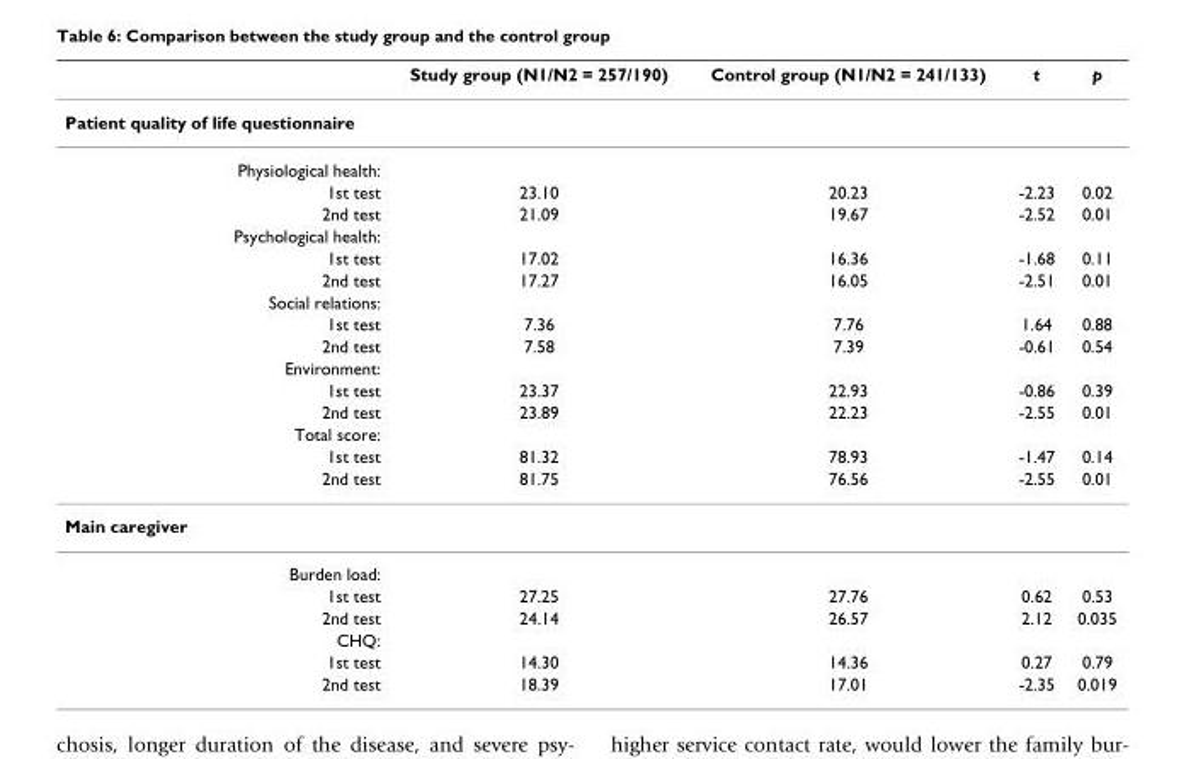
<table><thead><tr><td></td><td>Study group (N1/N2 = 257/190)</td><td>Control group (N1/N2 = 241/133)</td><td>t</td><td>p</td></tr></thead><tbody><tr><td colspan="5">Patient quality of life questionnaire</td></tr><tr><td colspan="5">Physiological health:</td></tr><tr><td>1st test</td><td>23.10</td><td>20.23</td><td>-2.23</td><td>0.02</td></tr><tr><td>2nd test</td><td>21.09</td><td>19.67</td><td>-2.52</td><td>0.01</td></tr><tr><td colspan="5">Psychological health:</td></tr><tr><td>1st test</td><td>17.02</td><td>16.36</td><td>-1.68</td><td>0.11</td></tr><tr><td>2nd test</td><td>17.27</td><td>16.05</td><td>-2.51</td><td>0.01</td></tr><tr><td colspan="5">Social relations:</td></tr><tr><td>1st test</td><td>7.36</td><td>7.76</td><td>1.64</td><td>0.88</td></tr><tr><td>2nd test</td><td>7.58</td><td>7.39</td><td>-0.61</td><td>0.54</td></tr><tr><td colspan="5">Environment:</td></tr><tr><td>1st test</td><td>23.37</td><td>22.93</td><td>-0.86</td><td>0.39</td></tr><tr><td>2nd test</td><td>23.89</td><td>22.23</td><td>-2.55</td><td>0.01</td></tr><tr><td colspan="5">Total score:</td></tr><tr><td>1st test</td><td>81.32</td><td>78.93</td><td>-1.47</td><td>0.14</td></tr><tr><td>2nd test</td><td>81.75</td><td>76.56</td><td>-2.55</td><td>0.01</td></tr><tr><td colspan="5">Main caregiver</td></tr><tr><td colspan="5">Burden load:</td></tr><tr><td>1st test</td><td>27.25</td><td>27.76</td><td>0.62</td><td>0.53</td></tr><tr><td>2nd test</td><td>24.14</td><td>26.57</td><td>2.12</td><td>0.035</td></tr><tr><td colspan="5">CHQ:</td></tr><tr><td>1st test</td><td>14.30</td><td>14.36</td><td>0.27</td><td>0.79</td></tr><tr><td>2nd test</td><td>18.39</td><td>17.01</td><td>-2.35</td><td>0.019</td></tr></tbody></table>